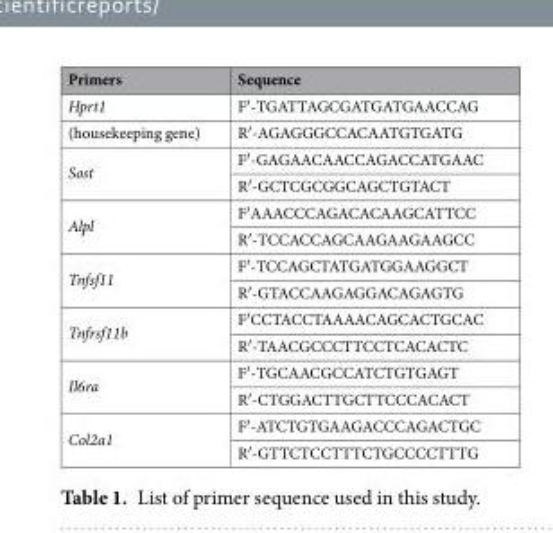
<table><thead><tr><td>Primers</td><td>Sequence</td></tr></thead><tbody><tr><td>Hprt1</td><td>F′-TGATTAGCGATGATGAACCAG</td></tr><tr><td>(housekeeping gene)</td><td>R′-AGAGGGCCACAATGTGATG</td></tr><tr><td rowspan="2">Sost</td><td>F′-GAGAACAACCAGACCATGAAC</td></tr><tr><td>R′-GCTCGCGGCAGCTGTACT</td></tr><tr><td rowspan="2">Alpl</td><td>F′AAACCCAGACACAAGCATTCC</td></tr><tr><td>R′-TCCACCAGCAAGAAGAAGCC</td></tr><tr><td rowspan="2">Tnfsf11</td><td>F′-TCCAGCTATGATGGAAGGCT</td></tr><tr><td>R′-GTACCAAGAGGACAGAGTG</td></tr><tr><td rowspan="2">Tnfrsf11b</td><td>F′CCTACCTAAAACAGCACTGCAC</td></tr><tr><td>R′-TAACGCCCTTCCTCACACTC</td></tr><tr><td rowspan="2">Il6ra</td><td>F′-TGCAACGCCATCTGTGAGT</td></tr><tr><td>R′-CTGGACTTGCTTCCCACACT</td></tr><tr><td rowspan="2">Col2a1</td><td>F′-ATCTGTGAAGACCCAGACTGC</td></tr><tr><td>R′-GTTCTCCTTTCTGCCCCTTTG</td></tr></tbody></table>